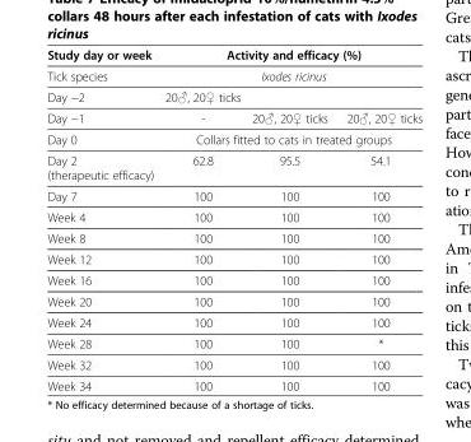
<table><thead><tr><td rowspan="3">Study day or week Tick species Day −2</td><td rowspan="2" colspan="3">Activity and efficacy (%) Ixodes ricinus</td></tr><tr></tr><tr><td>20♂, 20♀ ticks</td><td></td><td></td></tr></thead><tbody><tr><td>Day −1</td><td>-</td><td>20♂, 20♀ ticks</td><td>20♂, 20♀ ticks</td></tr><tr><td>Day 0</td><td colspan="3">Collars fitted to cats in treated groups</td></tr><tr><td>Day 2 (therapeutic efficacy)</td><td>62.8</td><td>95.5</td><td>54.1</td></tr><tr><td>Day 7</td><td>100</td><td>100</td><td>100</td></tr><tr><td>Week 4</td><td>100</td><td>100</td><td>100</td></tr><tr><td>Week 8</td><td>100</td><td>100</td><td>100</td></tr><tr><td>Week 12</td><td>100</td><td>100</td><td>100</td></tr><tr><td>Week 16</td><td>100</td><td>100</td><td>100</td></tr><tr><td>Week 20</td><td>100</td><td>100</td><td>100</td></tr><tr><td>Week 24</td><td>100</td><td>100</td><td>100</td></tr><tr><td>Week 28</td><td>100</td><td>100</td><td>*</td></tr><tr><td>Week 32</td><td>100</td><td>100</td><td>100</td></tr><tr><td>Week 34</td><td>100</td><td>100</td><td>100</td></tr></tbody></table>